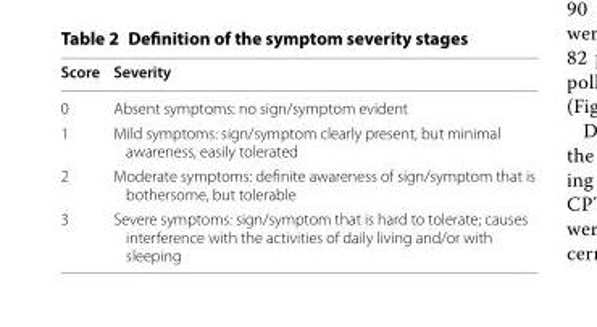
<table><thead><tr><td>Score</td><td>Severity</td></tr></thead><tbody><tr><td>0</td><td>Absent symptoms: no sign/symptom evident</td></tr><tr><td>1</td><td>Mild symptoms: sign/symptom clearly present, but minimal awareness, easily tolerated</td></tr><tr><td>2</td><td>Moderate symptoms: definite awareness of sign/symptom that is bothersome, but tolerable</td></tr><tr><td>3</td><td>Severe symptoms: sign/symptom that is hard to tolerate; causes interference with the activities of daily living and/or with sleeping</td></tr></tbody></table>